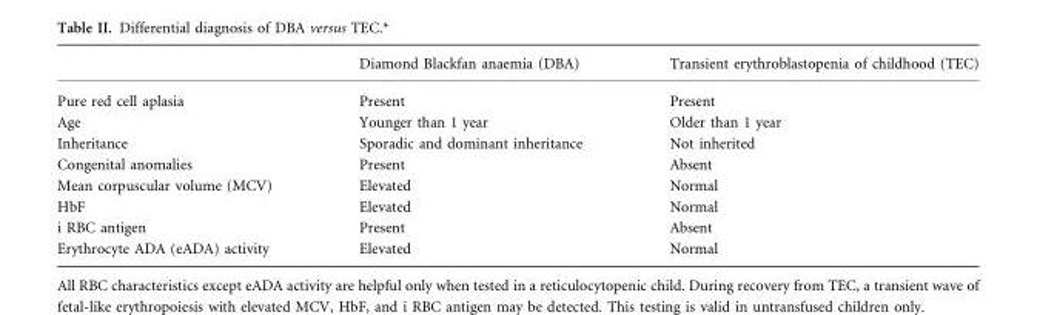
<table><thead><tr><td></td><td>Diamond Blackfan anaemia (DBA)</td><td>Transient erythroblastopenia of childhood (TEC)</td></tr></thead><tbody><tr><td>Pure red cell aplasia</td><td>Present</td><td>Present</td></tr><tr><td>Age</td><td>Younger than 1 year</td><td>Older than 1 year</td></tr><tr><td>Inheritance</td><td>Sporadic and dominant inheritance</td><td>Not inherited</td></tr><tr><td>Congenital anomalies</td><td>Present</td><td>Absent</td></tr><tr><td>Mean corpuscular volume (MCV)</td><td>Elevated</td><td>Normal</td></tr><tr><td>HbF</td><td>Elevated</td><td>Normal</td></tr><tr><td>i RBC antigen</td><td>Present</td><td>Absent</td></tr><tr><td>Erythrocyte ADA (eADA) activity</td><td>Elevated</td><td>Normal</td></tr></tbody></table>